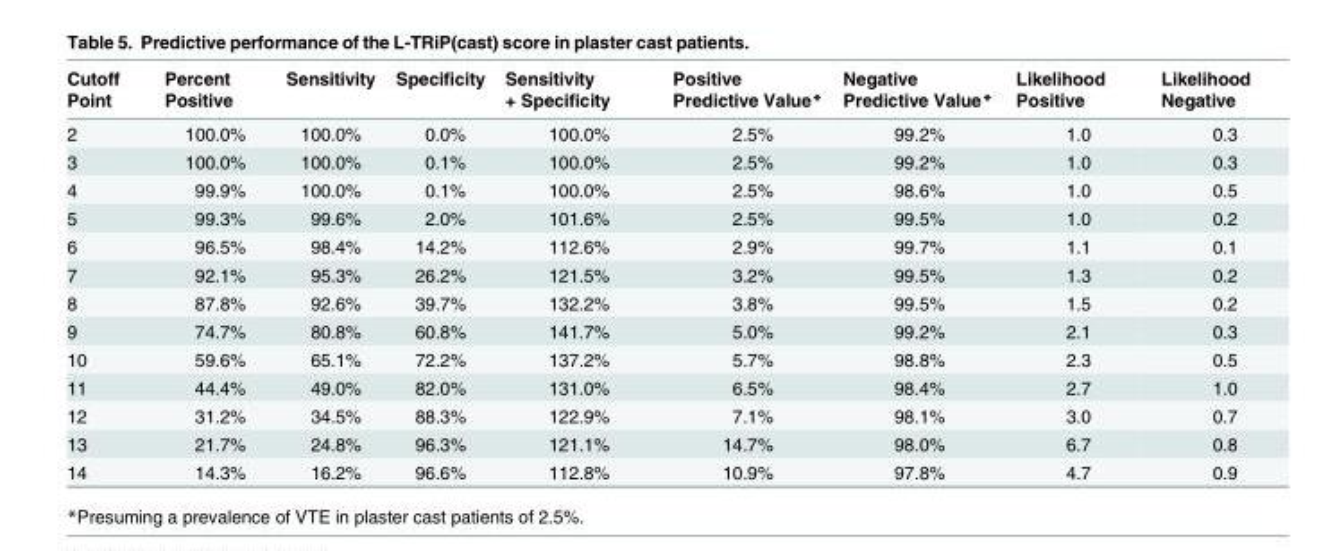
<table><thead><tr><td>Cutoff Point</td><td>Percent Positive</td><td>Sensitivity</td><td>Specificity</td><td>Sensitivity + Specificity</td><td>Positive Predictive Value*</td><td>Negative Predictive Value*</td><td>Likelihood Positive</td><td>Likelihood Negative</td></tr></thead><tbody><tr><td>2</td><td>100.0%</td><td>100.0%</td><td>0.0%</td><td>100.0%</td><td>2.5%</td><td>99.2%</td><td>1.0</td><td>0.3</td></tr><tr><td>3</td><td>100.0%</td><td>100.0%</td><td>0.1%</td><td>100.0%</td><td>2.5%</td><td>99.2%</td><td>1.0</td><td>0.3</td></tr><tr><td>4</td><td>99.9%</td><td>100.0%</td><td>0.1%</td><td>100.0%</td><td>2.5%</td><td>98.6%</td><td>1.0</td><td>0.5</td></tr><tr><td>5</td><td>99.3%</td><td>99.6%</td><td>2.0%</td><td>101.6%</td><td>2.5%</td><td>99.5%</td><td>1.0</td><td>0.2</td></tr><tr><td>6</td><td>96.5%</td><td>98.4%</td><td>14.2%</td><td>112.6%</td><td>2.9%</td><td>99.7%</td><td>1.1</td><td>0.1</td></tr><tr><td>7</td><td>92.1%</td><td>95.3%</td><td>26.2%</td><td>121.5%</td><td>3.2%</td><td>99.5%</td><td>1.3</td><td>0.2</td></tr><tr><td>8</td><td>87.8%</td><td>92.6%</td><td>39.7%</td><td>132.2%</td><td>3.8%</td><td>99.5%</td><td>1.5</td><td>0.2</td></tr><tr><td>9</td><td>74.7%</td><td>80.8%</td><td>60.8%</td><td>141.7%</td><td>5.0%</td><td>99.2%</td><td>2.1</td><td>0.3</td></tr><tr><td>10</td><td>59.6%</td><td>65.1%</td><td>72.2%</td><td>137.2%</td><td>5.7%</td><td>98.8%</td><td>2.3</td><td>0.5</td></tr><tr><td>11</td><td>44.4%</td><td>49.0%</td><td>82.0%</td><td>131.0%</td><td>6.5%</td><td>98.4%</td><td>2.7</td><td>1.0</td></tr><tr><td>12</td><td>31.2%</td><td>34.5%</td><td>88.3%</td><td>122.9%</td><td>7.1%</td><td>98.1%</td><td>3.0</td><td>0.7</td></tr><tr><td>13</td><td>21.7%</td><td>24.8%</td><td>96.3%</td><td>121.1%</td><td>14.7%</td><td>98.0%</td><td>6.7</td><td>0.8</td></tr><tr><td>14</td><td>14.3%</td><td>16.2%</td><td>96.6%</td><td>112.8%</td><td>10.9%</td><td>97.8%</td><td>4.7</td><td>0.9</td></tr></tbody></table>